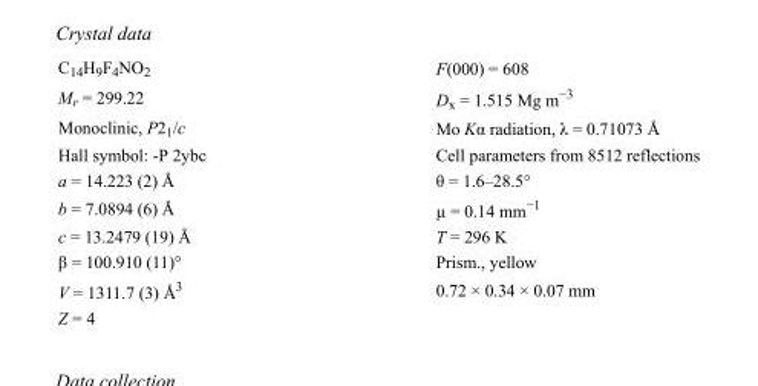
<table><tbody><tr><td>C<sub>14</sub>H<sub>9</sub>F<sub>4</sub>NO<sub>2</sub></td><td>F(000) = 608</td></tr><tr><td>M<sub>r</sub> = 299.22</td><td>D<sub>x</sub> = 1.515 Mg m<sup>−3</sup></td></tr><tr><td>Monoclinic, P2<sub>1</sub>/c</td><td>Mo Kα radiation, λ = 0.71073 Å</td></tr><tr><td>Hall symbol: -P 2ybc</td><td>Cell parameters from 8512 reflections</td></tr><tr><td>a = 14.223 (2) Å</td><td>θ = 1.6–28.5°</td></tr><tr><td>b = 7.0894 (6) Å</td><td>µ = 0.14 mm<sup>−1</sup></td></tr><tr><td>c = 13.2479 (19) Å</td><td>T = 296 K</td></tr><tr><td>β = 100.910 (11)°</td><td>Prism., yellow</td></tr><tr><td>V = 1311.7 (3) Å<sup>3</sup></td><td>0.72 × 0.34 × 0.07 mm</td></tr><tr><td>Z = 4</td><td></td></tr></tbody></table>